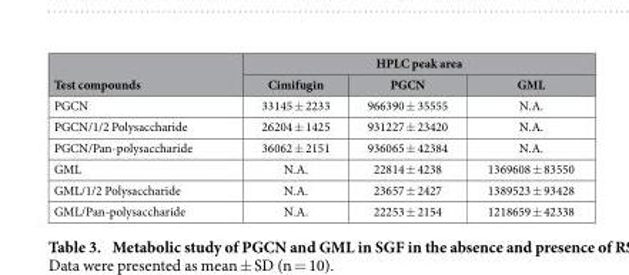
<table><thead><tr><td rowspan="2">Test compounds</td><td colspan="3">HPLC peak area</td></tr><tr><td>Cimifugin</td><td>PGCN</td><td>GML</td></tr></thead><tbody><tr><td>PGCN</td><td>33145 ± 2233</td><td>966390 ± 35555</td><td>N.A.</td></tr><tr><td>PGCN/1/2 Polysaccharide</td><td>26204 ± 1425</td><td>931227 ± 23420</td><td>N.A.</td></tr><tr><td>PGCN/Pan-polysaccharide</td><td>36062 ± 2151</td><td>936065 ± 42384</td><td>N.A.</td></tr><tr><td>GML</td><td>N.A.</td><td>22814 ± 4238</td><td>1369608 ± 83550</td></tr><tr><td>GML/1/2 Polysaccharide</td><td>N.A.</td><td>23657 ± 2427</td><td>1389523 ± 93428</td></tr><tr><td>GML/Pan-polysaccharide</td><td>N.A.</td><td>22253 ± 2154</td><td>1218659 ± 42338</td></tr></tbody></table>